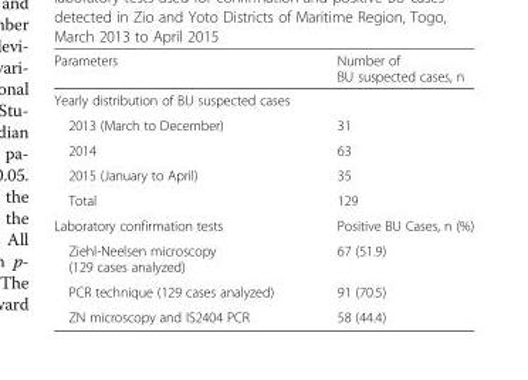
<table><thead><tr><td>Parameters</td><td>Number of BU suspected cases, n</td></tr></thead><tbody><tr><td colspan="2">Yearly distribution of BU suspected cases</td></tr><tr><td>2013 (March to December)</td><td>31</td></tr><tr><td>2014</td><td>63</td></tr><tr><td>2015 (January to April)</td><td>35</td></tr><tr><td>Total</td><td>129</td></tr><tr><td>Laboratory confirmation tests</td><td>Positive BU Cases, n (%)</td></tr><tr><td>Ziehl-Neelsen microscopy (129 cases analyzed)</td><td>67 (51.9)</td></tr><tr><td>PCR technique (129 cases analyzed)</td><td>91 (70.5)</td></tr><tr><td>ZN microscopy and IS2404 PCR</td><td>58 (44.4)</td></tr></tbody></table>